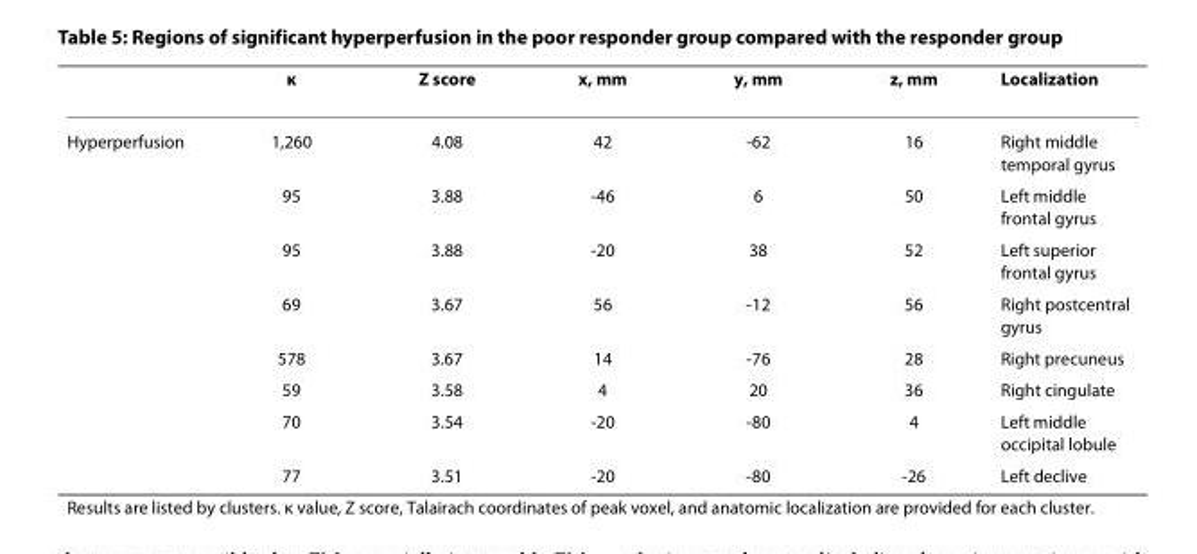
<table><thead><tr><td></td><td>κ</td><td>Z score</td><td>x, mm</td><td>y, mm</td><td>z, mm</td><td>Localization</td></tr></thead><tbody><tr><td rowspan="8">Hyperperfusion</td><td>1,260</td><td>4.08</td><td>42</td><td>-62</td><td>16</td><td>Right middle temporal gyrus</td></tr><tr><td>95</td><td>3.88</td><td>-46</td><td>6</td><td>50</td><td>Left middle frontal gyrus</td></tr><tr><td>95</td><td>3.88</td><td>-20</td><td>38</td><td>52</td><td>Left superior frontal gyrus</td></tr><tr><td>69</td><td>3.67</td><td>56</td><td>-12</td><td>56</td><td>Right postcentral gyrus</td></tr><tr><td>578</td><td>3.67</td><td>14</td><td>-76</td><td>28</td><td>Right precuneus</td></tr><tr><td>59</td><td>3.58</td><td>4</td><td>20</td><td>36</td><td>Right cingulate</td></tr><tr><td>70</td><td>3.54</td><td>-20</td><td>-80</td><td>4</td><td>Left middle occipital lobule</td></tr><tr><td>77</td><td>3.51</td><td>-20</td><td>-80</td><td>-26</td><td>Left declive</td></tr></tbody></table>